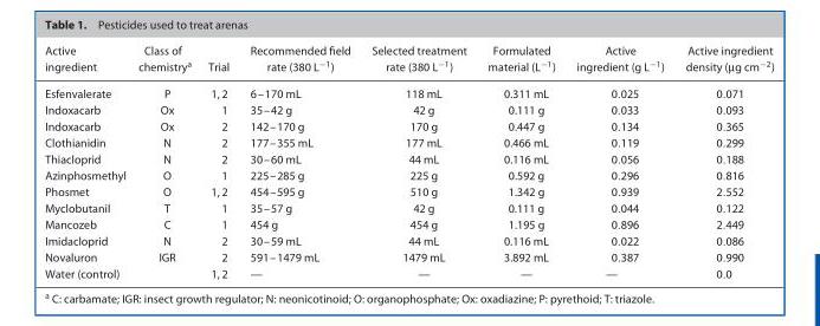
<table><thead><tr><td>Active ingredient</td><td>Class of chemistry<sup>a</sup></td><td>Trial</td><td>Recommended field rate (380 L<sup>−1</sup>)</td><td>Selected treatment rate (380 L<sup>−1</sup>)</td><td>Formulated material (L<sup>−1</sup>)</td><td>Active ingredient (g L<sup>−1</sup>)</td><td>Active ingredient density (µg cm<sup>−2</sup>)</td></tr></thead><tbody><tr><td>Esfenvalerate</td><td>P</td><td>1, 2</td><td>6–170 mL</td><td>118 mL</td><td>0.311 mL</td><td>0.025</td><td>0.071</td></tr><tr><td>Indoxacarb</td><td>Ox</td><td>1</td><td>35–42 g</td><td>42 g</td><td>0.111 g</td><td>0.033</td><td>0.093</td></tr><tr><td>Indoxacarb</td><td>Ox</td><td>2</td><td>142–170 g</td><td>170 g</td><td>0.447 g</td><td>0.134</td><td>0.365</td></tr><tr><td>Clothianidin</td><td>N</td><td>2</td><td>177–355 mL</td><td>177 mL</td><td>0.466 mL</td><td>0.119</td><td>0.299</td></tr><tr><td>Thiacloprid</td><td>N</td><td>2</td><td>30–60 mL</td><td>44 mL</td><td>0.116 mL</td><td>0.056</td><td>0.188</td></tr><tr><td>Azinphosmethyl</td><td>O</td><td>1</td><td>225–285 g</td><td>225 g</td><td>0.592 g</td><td>0.296</td><td>0.816</td></tr><tr><td>Phosmet</td><td>O</td><td>1, 2</td><td>454–595 g</td><td>510 g</td><td>1.342 g</td><td>0.939</td><td>2.552</td></tr><tr><td>Myclobutanil</td><td>T</td><td>1</td><td>35–57 g</td><td>42 g</td><td>0.111 g</td><td>0.044</td><td>0.122</td></tr><tr><td>Mancozeb</td><td>C</td><td>1</td><td>454 g</td><td>454 g</td><td>1.195 g</td><td>0.896</td><td>2.449</td></tr><tr><td>Imidacloprid</td><td>N</td><td>2</td><td>30–59 mL</td><td>44 mL</td><td>0.116 mL</td><td>0.022</td><td>0.086</td></tr><tr><td>Novaluron</td><td>IGR</td><td>2</td><td>591–1479 mL</td><td>1479 mL</td><td>3.892 mL</td><td>0.387</td><td>0.990</td></tr><tr><td>Water (control)</td><td></td><td>1, 2</td><td>—</td><td>—</td><td>—</td><td>—</td><td>0.0</td></tr></tbody></table>